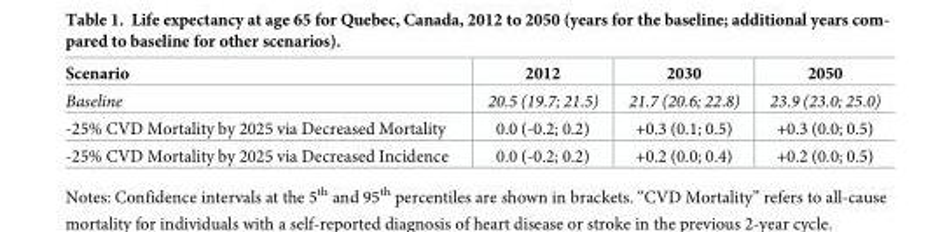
<table><thead><tr><td>Scenario</td><td>2012</td><td>2030</td><td>2050</td></tr></thead><tbody><tr><td>Baseline</td><td>20.5 (19.7; 21.5)</td><td>21.7 (20.6; 22.8)</td><td>23.9 (23.0; 25.0)</td></tr><tr><td>-25% CVD Mortality by 2025 via Decreased Mortality</td><td>0.0 (-0.2; 0.2)</td><td>+0.3 (0.1; 0.5)</td><td>+0.3 (0.0; 0.5)</td></tr><tr><td>-25% CVD Mortality by 2025 via Decreased Incidence</td><td>0.0 (-0.2; 0.2)</td><td>+0.2 (0.0; 0.4)</td><td>+0.2 (0.0; 0.5)</td></tr></tbody></table>